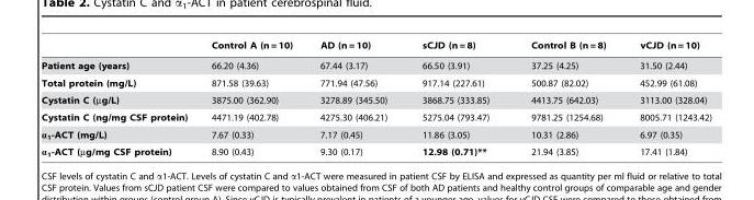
<table><thead><tr><td></td><td>Control A (n = 10)</td><td>AD (n = 10)</td><td>sCJD (n = 8)</td><td>Control B (n = 8)</td><td>vCJD (n = 10)</td></tr></thead><tbody><tr><td>Patient age (years)</td><td>66.20 (4.36)</td><td>67.44 (3.17)</td><td>66.50 (3.91)</td><td>37.25 (4.25)</td><td>31.50 (2.44)</td></tr><tr><td>Total protein (mg/L)</td><td>871.58 (39.63)</td><td>771.94 (47.56)</td><td>917.14 (227.61)</td><td>500.87 (82.02)</td><td>452.99 (61.08)</td></tr><tr><td>Cystatin C (µg/L)</td><td>3875.00 (362.90)</td><td>3278.89 (345.50)</td><td>3868.75 (333.85)</td><td>4413.75 (642.03)</td><td>3113.00 (328.04)</td></tr><tr><td>Cystatin C (ng/mg CSF protein)</td><td>4471.19 (402.78)</td><td>4275.30 (406.21)</td><td>5275.04 (793.47)</td><td>9781.25 (1254.68)</td><td>8005.71 (1243.42)</td></tr><tr><td>α<sub>1</sub>-ACT (mg/L)</td><td>7.67 (0.33)</td><td>7.17 (0.45)</td><td>11.86 (3.05)</td><td>10.31 (2.86)</td><td>6.97 (0.35)</td></tr><tr><td>α<sub>1</sub>-ACT (µg/mg CSF protein)</td><td>8.90 (0.43)</td><td>9.30 (0.17)</td><td>12.98 (0.71)**</td><td>21.94 (3.85)</td><td>17.41 (1.84)</td></tr></tbody></table>